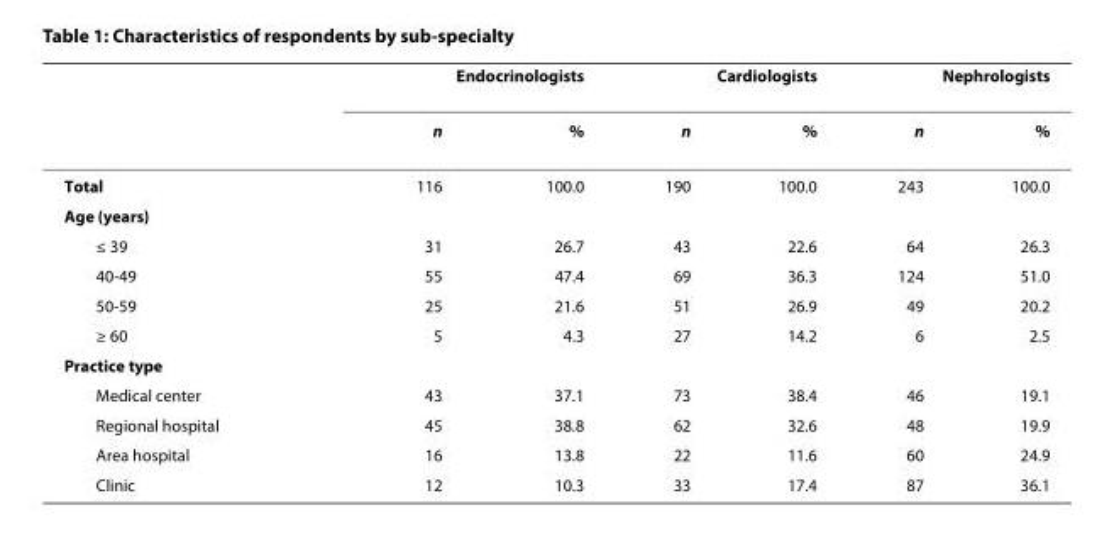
<table><thead><tr><td rowspan="2"></td><td colspan="2">Endocrinologists</td><td colspan="2">Cardiologists</td><td colspan="2">Nephrologists</td></tr><tr><td>n</td><td>%</td><td>n</td><td>%</td><td>n</td><td>%</td></tr></thead><tbody><tr><td>Total</td><td>116</td><td>100.0</td><td>190</td><td>100.0</td><td>243</td><td>100.0</td></tr><tr><td colspan="7">Age (years)</td></tr><tr><td>≤ 39</td><td>31</td><td>26.7</td><td>43</td><td>22.6</td><td>64</td><td>26.3</td></tr><tr><td>40-49</td><td>55</td><td>47.4</td><td>69</td><td>36.3</td><td>124</td><td>51.0</td></tr><tr><td>50-59</td><td>25</td><td>21.6</td><td>51</td><td>26.9</td><td>49</td><td>20.2</td></tr><tr><td>≥ 60</td><td>5</td><td>4.3</td><td>27</td><td>14.2</td><td>6</td><td>2.5</td></tr><tr><td colspan="7">Practice type</td></tr><tr><td>Medical center</td><td>43</td><td>37.1</td><td>73</td><td>38.4</td><td>46</td><td>19.1</td></tr><tr><td>Regional hospital</td><td>45</td><td>38.8</td><td>62</td><td>32.6</td><td>48</td><td>19.9</td></tr><tr><td>Area hospital</td><td>16</td><td>13.8</td><td>22</td><td>11.6</td><td>60</td><td>24.9</td></tr><tr><td>Clinic</td><td>12</td><td>10.3</td><td>33</td><td>17.4</td><td>87</td><td>36.1</td></tr></tbody></table>